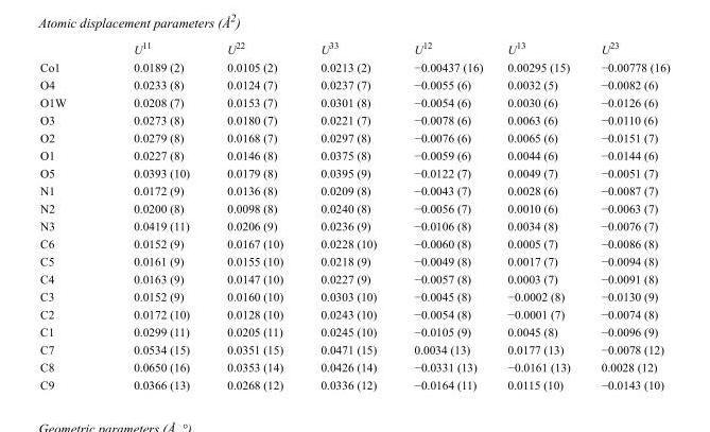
<table><thead><tr><td></td><td>U<sup>11</sup></td><td>U<sup>22</sup></td><td>U<sup>33</sup></td><td>U<sup>12</sup></td><td>U<sup>13</sup></td><td>U<sup>23</sup></td></tr></thead><tbody><tr><td>Co1</td><td>0.0189 (2)</td><td>0.0105 (2)</td><td>0.0213 (2)</td><td>−0.00437 (16)</td><td>0.00295 (15)</td><td>−0.00778 (16)</td></tr><tr><td>O4</td><td>0.0233 (8)</td><td>0.0124 (7)</td><td>0.0237 (7)</td><td>−0.0055 (6)</td><td>0.0032 (5)</td><td>−0.0082 (6)</td></tr><tr><td>O1W</td><td>0.0208 (7)</td><td>0.0153 (7)</td><td>0.0301 (8)</td><td>−0.0054 (6)</td><td>0.0030 (6)</td><td>−0.0126 (6)</td></tr><tr><td>O3</td><td>0.0273 (8)</td><td>0.0180 (7)</td><td>0.0221 (7)</td><td>−0.0078 (6)</td><td>0.0063 (6)</td><td>−0.0110 (6)</td></tr><tr><td>O2</td><td>0.0279 (8)</td><td>0.0168 (7)</td><td>0.0297 (8)</td><td>−0.0076 (6)</td><td>0.0065 (6)</td><td>−0.0151 (7)</td></tr><tr><td>O1</td><td>0.0227 (8)</td><td>0.0146 (8)</td><td>0.0375 (8)</td><td>−0.0059 (6)</td><td>0.0044 (6)</td><td>−0.0144 (6)</td></tr><tr><td>O5</td><td>0.0393 (10)</td><td>0.0179 (8)</td><td>0.0395 (9)</td><td>−0.0122 (7)</td><td>0.0049 (7)</td><td>−0.0051 (7)</td></tr><tr><td>N1</td><td>0.0172 (9)</td><td>0.0136 (8)</td><td>0.0209 (8)</td><td>−0.0043 (7)</td><td>0.0028 (6)</td><td>−0.0087 (7)</td></tr><tr><td>N2</td><td>0.0200 (8)</td><td>0.0098 (8)</td><td>0.0240 (8)</td><td>−0.0056 (7)</td><td>0.0010 (6)</td><td>−0.0063 (7)</td></tr><tr><td>N3</td><td>0.0419 (11)</td><td>0.0206 (9)</td><td>0.0236 (9)</td><td>−0.0106 (8)</td><td>0.0034 (8)</td><td>−0.0076 (7)</td></tr><tr><td>C6</td><td>0.0152 (9)</td><td>0.0167 (10)</td><td>0.0228 (10)</td><td>−0.0060 (8)</td><td>0.0005 (7)</td><td>−0.0086 (8)</td></tr><tr><td>C5</td><td>0.0161 (9)</td><td>0.0155 (10)</td><td>0.0218 (9)</td><td>−0.0049 (8)</td><td>0.0017 (7)</td><td>−0.0094 (8)</td></tr><tr><td>C4</td><td>0.0163 (9)</td><td>0.0147 (10)</td><td>0.0227 (9)</td><td>−0.0057 (8)</td><td>0.0003 (7)</td><td>−0.0091 (8)</td></tr><tr><td>C3</td><td>0.0152 (9)</td><td>0.0160 (10)</td><td>0.0303 (10)</td><td>−0.0045 (8)</td><td>−0.0002 (8)</td><td>−0.0130 (9)</td></tr><tr><td>C2</td><td>0.0172 (10)</td><td>0.0128 (10)</td><td>0.0243 (10)</td><td>−0.0054 (8)</td><td>−0.0001 (7)</td><td>−0.0074 (8)</td></tr><tr><td>C1</td><td>0.0299 (11)</td><td>0.0205 (11)</td><td>0.0245 (10)</td><td>−0.0105 (9)</td><td>0.0045 (8)</td><td>−0.0096 (9)</td></tr><tr><td>C7</td><td>0.0534 (15)</td><td>0.0351 (15)</td><td>0.0471 (15)</td><td>0.0034 (13)</td><td>0.0177 (13)</td><td>−0.0078 (12)</td></tr><tr><td>C8</td><td>0.0650 (16)</td><td>0.0353 (14)</td><td>0.0426 (14)</td><td>−0.0331 (13)</td><td>−0.0161 (13)</td><td>0.0028 (12)</td></tr><tr><td>C9</td><td>0.0366 (13)</td><td>0.0268 (12)</td><td>0.0336 (12)</td><td>−0.0164 (11)</td><td>0.0115 (10)</td><td>−0.0143 (10)</td></tr></tbody></table>